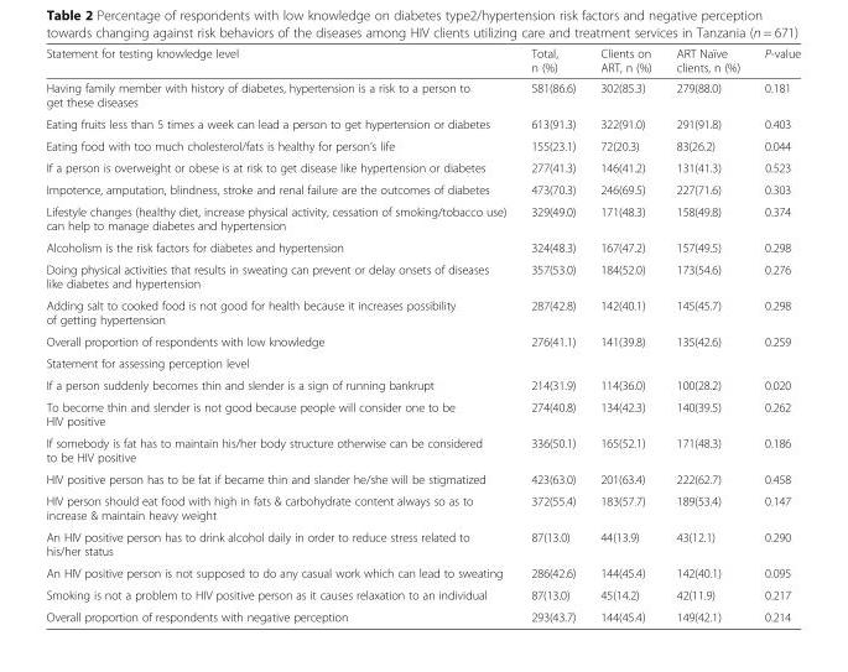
<table><thead><tr><td>Statement for testing knowledge level</td><td>Total, n (%)</td><td>Clients on ART, n (%)</td><td>ART Naïve clients, n (%)</td><td>P-value</td></tr></thead><tbody><tr><td>Having family member with history of diabetes, hypertension is a risk to a person to get these diseases</td><td>581(86.6)</td><td>302(85.3)</td><td>279(88.0)</td><td>0.181</td></tr><tr><td>Eating fruits less than 5 times a week can lead a person to get hypertension or diabetes</td><td>613(91.3)</td><td>322(91.0)</td><td>291(91.8)</td><td>0.403</td></tr><tr><td>Eating food with too much cholesterol/fats is healthy for person’s life</td><td>155(23.1)</td><td>72(20.3)</td><td>83(26.2)</td><td>0.044</td></tr><tr><td>If a person is overweight or obese is at risk to get disease like hypertension or diabetes</td><td>277(41.3)</td><td>146(41.2)</td><td>131(41.3)</td><td>0.523</td></tr><tr><td>Impotence, amputation, blindness, stroke and renal failure are the outcomes of diabetes</td><td>473(70.3)</td><td>246(69.5)</td><td>227(71.6)</td><td>0.303</td></tr><tr><td>Lifestyle changes (healthy diet, increase physical activity, cessation of smoking/tobacco use) can help to manage diabetes and hypertension</td><td>329(49.0)</td><td>171(48.3)</td><td>158(49.8)</td><td>0.374</td></tr><tr><td>Alcoholism is the risk factors for diabetes and hypertension</td><td>324(48.3)</td><td>167(47.2)</td><td>157(49.5)</td><td>0.298</td></tr><tr><td>Doing physical activities that results in sweating can prevent or delay onsets of diseases like diabetes and hypertension</td><td>357(53.0)</td><td>184(52.0)</td><td>173(54.6)</td><td>0.276</td></tr><tr><td>Adding salt to cooked food is not good for health because it increases possibility of getting hypertension</td><td>287(42.8)</td><td>142(40.1)</td><td>145(45.7)</td><td>0.298</td></tr><tr><td>Overall proportion of respondents with low knowledge</td><td>276(41.1)</td><td>141(39.8)</td><td>135(42.6)</td><td>0.259</td></tr><tr><td colspan="5">Statement for assessing perception level</td></tr><tr><td>If a person suddenly becomes thin and slender is a sign of running bankrupt</td><td>214(31.9)</td><td>114(36.0)</td><td>100(28.2)</td><td>0.020</td></tr><tr><td>To become thin and slender is not good because people will consider one to be HIV positive</td><td>274(40.8)</td><td>134(42.3)</td><td>140(39.5)</td><td>0.262</td></tr><tr><td>If somebody is fat has to maintain his/her body structure otherwise can be considered to be HIV positive</td><td>336(50.1)</td><td>165(52.1)</td><td>171(48.3)</td><td>0.186</td></tr><tr><td>HIV positive person has to be fat if became thin and slander he/she will be stigmatized</td><td>423(63.0)</td><td>201(63.4)</td><td>222(62.7)</td><td>0.458</td></tr><tr><td>HIV person should eat food with high in fats &amp; carbohydrate content always so as to increase &amp; maintain heavy weight</td><td>372(55.4)</td><td>183(57.7)</td><td>189(53.4)</td><td>0.147</td></tr><tr><td>An HIV positive person has to drink alcohol daily in order to reduce stress related to his/her status</td><td>87(13.0)</td><td>44(13.9)</td><td>43(12.1)</td><td>0.290</td></tr><tr><td>An HIV positive person is not supposed to do any casual work which can lead to sweating</td><td>286(42.6)</td><td>144(45.4)</td><td>142(40.1)</td><td>0.095</td></tr><tr><td>Smoking is not a problem to HIV positive person as it causes relaxation to an individual</td><td>87(13.0)</td><td>45(14.2)</td><td>42(11.9)</td><td>0.217</td></tr><tr><td>Overall proportion of respondents with negative perception</td><td>293(43.7)</td><td>144(45.4)</td><td>149(42.1)</td><td>0.214</td></tr></tbody></table>